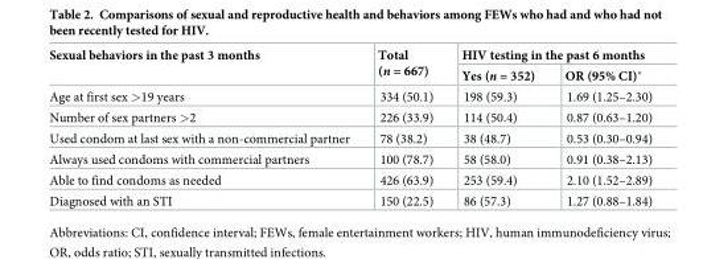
<table><thead><tr><td rowspan="2">Sexual behaviors in the past 3 months</td><td rowspan="2">Total (n = 667)</td><td colspan="2">HIV testing in the past 6 months</td></tr><tr><td>Yes (n = 352)</td><td>OR (95% CI)*</td></tr></thead><tbody><tr><td>Age at first sex &gt;19 years</td><td>334 (50.1)</td><td>198 (59.3)</td><td>1.69 (1.25–2.30)</td></tr><tr><td>Number of sex partners &gt;2</td><td>226 (33.9)</td><td>114 (50.4)</td><td>0.87 (0.63–1.20)</td></tr><tr><td>Used condom at last sex with a non-commercial partner</td><td>78 (38.2)</td><td>38 (48.7)</td><td>0.53 (0.30–0.94)</td></tr><tr><td>Always used condoms with commercial partners</td><td>100 (78.7)</td><td>58 (58.0)</td><td>0.91 (0.38–2.13)</td></tr><tr><td>Able to find condoms as needed</td><td>426 (63.9)</td><td>253 (59.4)</td><td>2.10 (1.52–2.89)</td></tr><tr><td>Diagnosed with an STI</td><td>150 (22.5)</td><td>86 (57.3)</td><td>1.27 (0.88–1.84)</td></tr></tbody></table>